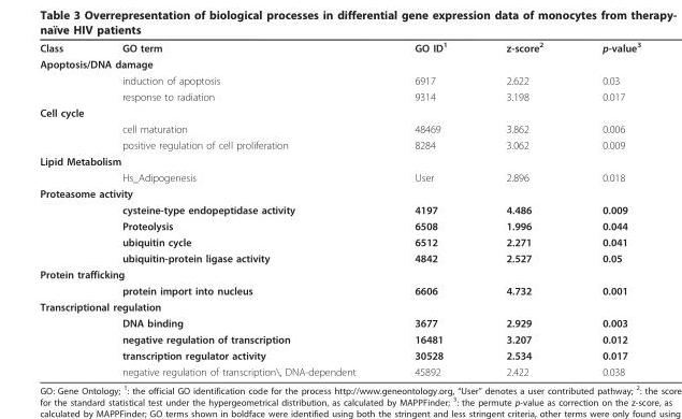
<table><tbody><tr><td>Class</td><td>GO term</td><td>GO ID<sup>1</sup></td><td>z-score<sup>2</sup></td><td>p-value<sup>3</sup></td></tr><tr><td colspan="5">Apoptosis/DNA damage</td></tr><tr><td></td><td>induction of apoptosis</td><td>6917</td><td>2.622</td><td>0.03</td></tr><tr><td></td><td>response to radiation</td><td>9314</td><td>3.198</td><td>0.017</td></tr><tr><td colspan="5">Cell cycle</td></tr><tr><td></td><td>cell maturation</td><td>48469</td><td>3.862</td><td>0.006</td></tr><tr><td></td><td>positive regulation of cell proliferation</td><td>8284</td><td>3.062</td><td>0.009</td></tr><tr><td colspan="5">Lipid Metabolism</td></tr><tr><td></td><td>Hs_Adipogenesis</td><td>User</td><td>2.896</td><td>0.018</td></tr><tr><td colspan="5">Proteasome activity</td></tr><tr><td></td><td>cysteine-type endopeptidase activity</td><td>4197</td><td>4.486</td><td>0.009</td></tr><tr><td></td><td>Proteolysis</td><td>6508</td><td>1.996</td><td>0.044</td></tr><tr><td></td><td>ubiquitin cycle</td><td>6512</td><td>2.271</td><td>0.041</td></tr><tr><td></td><td>ubiquitin-protein ligase activity</td><td>4842</td><td>2.527</td><td>0.05</td></tr><tr><td colspan="5">Protein trafficking</td></tr><tr><td></td><td>protein import into nucleus</td><td>6606</td><td>4.732</td><td>0.001</td></tr><tr><td colspan="5">Transcriptional regulation</td></tr><tr><td></td><td>DNA binding</td><td>3677</td><td>2.929</td><td>0.003</td></tr><tr><td></td><td>negative regulation of transcription</td><td>16481</td><td>3.207</td><td>0.012</td></tr><tr><td></td><td>transcription regulator activity</td><td>30528</td><td>2.534</td><td>0.017</td></tr><tr><td></td><td>negative regulation of transcription\, DNA-dependent</td><td>45892</td><td>2.422</td><td>0.038</td></tr></tbody></table>